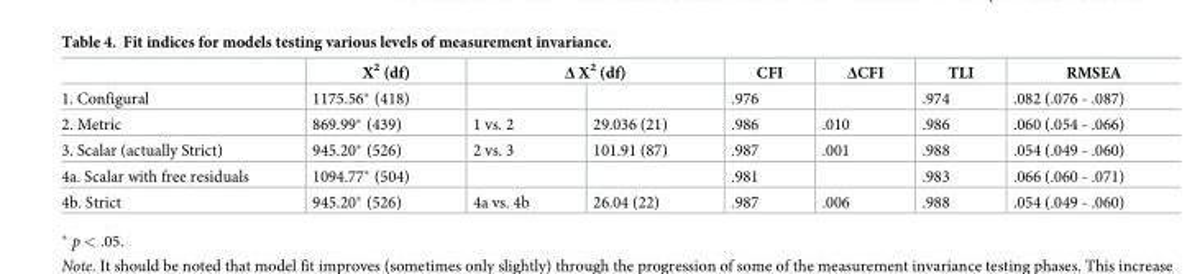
<table><thead><tr><td rowspan="2">1. Configural</td><td rowspan="2">Χ<sup>2</sup> (df) 1175.56* (418)</td><td colspan="2">Δ Χ<sup>2</sup> (df)</td><td rowspan="2">CFI .976</td><td rowspan="2">ΔCFI</td><td rowspan="2">TLI .974</td><td rowspan="2">RMSEA .082 (.076 - .087)</td></tr><tr><td></td><td></td></tr></thead><tbody><tr><td>2. Metric</td><td>869.99* (439)</td><td>1 vs. 2</td><td>29.036 (21)</td><td>.986</td><td>.010</td><td>.986</td><td>.060 (.054 - .066)</td></tr><tr><td>3. Scalar (actually Strict)</td><td>945.20* (526)</td><td>2 vs. 3</td><td>101.91 (87)</td><td>.987</td><td>.001</td><td>.988</td><td>.054 (.049 - .060)</td></tr><tr><td>4a. Scalar with free residuals</td><td>1094.77* (504)</td><td></td><td></td><td>.981</td><td></td><td>.983</td><td>.066 (.060 - .071)</td></tr><tr><td>4b. Strict</td><td>945.20* (526)</td><td>4a vs. 4b</td><td>26.04 (22)</td><td>.987</td><td>.006</td><td>.988</td><td>.054 (.049 - .060)</td></tr></tbody></table>